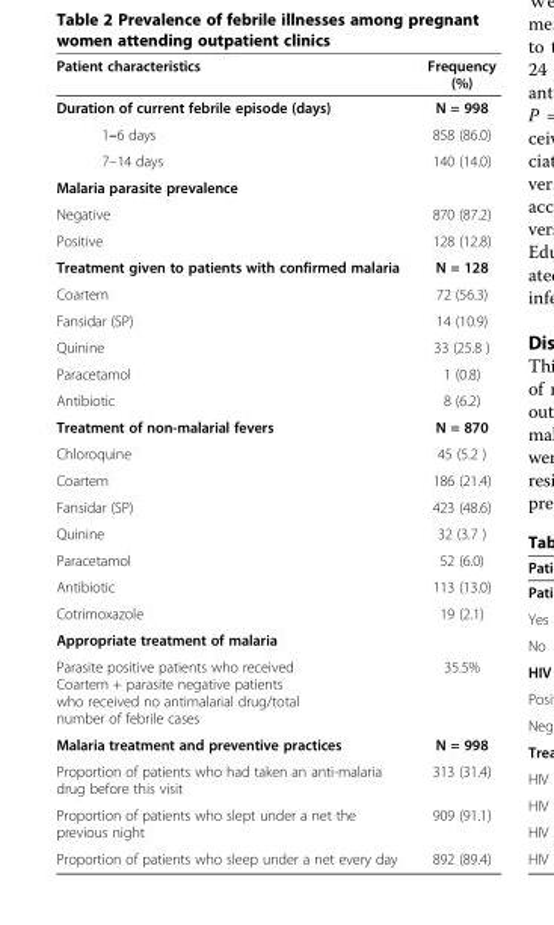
<table><thead><tr><td>Patient characteristics</td><td>Frequency (%)</td></tr></thead><tbody><tr><td>Duration of current febrile episode (days)</td><td>N = 998</td></tr><tr><td>1–6 days</td><td>858 (86.0)</td></tr><tr><td>7–14 days</td><td>140 (14.0)</td></tr><tr><td colspan="2">Malaria parasite prevalence</td></tr><tr><td>Negative</td><td>870 (87.2)</td></tr><tr><td>Positive</td><td>128 (12.8)</td></tr><tr><td>Treatment given to patients with confirmed malaria</td><td>N = 128</td></tr><tr><td>Coartem</td><td>72 (56.3)</td></tr><tr><td>Fansidar (SP)</td><td>14 (10.9)</td></tr><tr><td>Quinine</td><td>33 (25.8 )</td></tr><tr><td>Paracetamol</td><td>1 (0.8)</td></tr><tr><td>Antibiotic</td><td>8 (6.2)</td></tr><tr><td>Treatment of non-malarial fevers</td><td>N = 870</td></tr><tr><td>Chloroquine</td><td>45 (5.2 )</td></tr><tr><td>Coartem</td><td>186 (21.4)</td></tr><tr><td>Fansidar (SP)</td><td>423 (48.6)</td></tr><tr><td>Quinine</td><td>32 (3.7 )</td></tr><tr><td>Paracetamol</td><td>52 (6.0)</td></tr><tr><td>Antibiotic</td><td>113 (13.0)</td></tr><tr><td>Cotrimoxazole</td><td>19 (2.1)</td></tr><tr><td colspan="2">Appropriate treatment of malaria</td></tr><tr><td>Parasite positive patients who received Coartem + parasite negative patients who received no antimalarial drug/total number of febrile cases</td><td>35.5%</td></tr><tr><td>Malaria treatment and preventive practices</td><td>N = 998</td></tr><tr><td>Proportion of patients who had taken an anti-malaria drug before this visit</td><td>313 (31.4)</td></tr><tr><td>Proportion of patients who slept under a net the previous night</td><td>909 (91.1)</td></tr><tr><td>Proportion of patients who sleep under a net every day</td><td>892 (89.4)</td></tr></tbody></table>